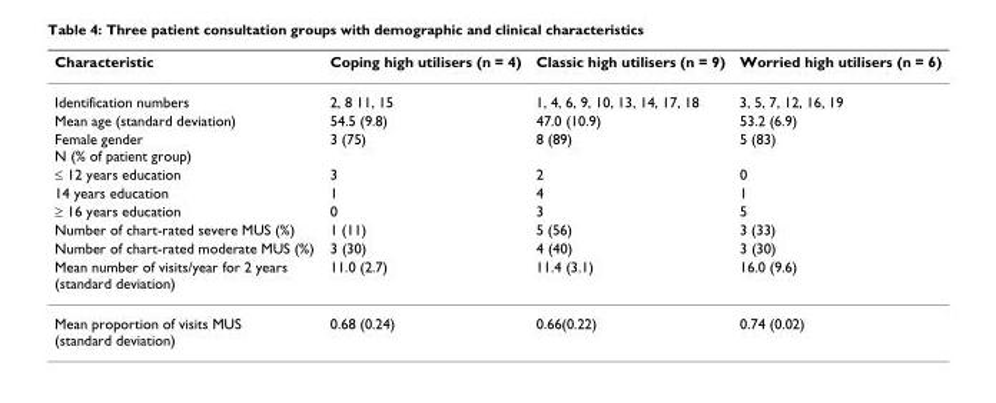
<table><thead><tr><td>Characteristic</td><td>Coping high utilisers (n = 4)</td><td>Classic high utilisers (n = 9)</td><td>Worried high utilisers (n = 6)</td></tr></thead><tbody><tr><td>Identification numbers</td><td>2, 8 11, 15</td><td>1, 4, 6, 9, 10, 13, 14, 17, 18</td><td>3, 5, 7, 12, 16, 19</td></tr><tr><td>Mean age (standard deviation)</td><td>54.5 (9.8)</td><td>47.0 (10.9)</td><td>53.2 (6.9)</td></tr><tr><td>Female gender N (% of patient group)</td><td>3 (75)</td><td>8 (89)</td><td>5 (83)</td></tr><tr><td>≤ 12 years education</td><td>3</td><td>2</td><td>0</td></tr><tr><td>14 years education</td><td>1</td><td>4</td><td>1</td></tr><tr><td>≥ 16 years education</td><td>0</td><td>3</td><td>5</td></tr><tr><td>Number of chart-rated severe MUS (%)</td><td>1 (11)</td><td>5 (56)</td><td>3 (33)</td></tr><tr><td>Number of chart-rated moderate MUS (%)</td><td>3 (30)</td><td>4 (40)</td><td>3 (30)</td></tr><tr><td>Mean number of visits/year for 2 years (standard deviation)</td><td>11.0 (2.7)</td><td>11.4 (3.1)</td><td>16.0 (9.6)</td></tr><tr><td>Mean proportion of visits MUS (standard deviation)</td><td>0.68 (0.24)</td><td>0.66(0.22)</td><td>0.74 (0.02)</td></tr></tbody></table>